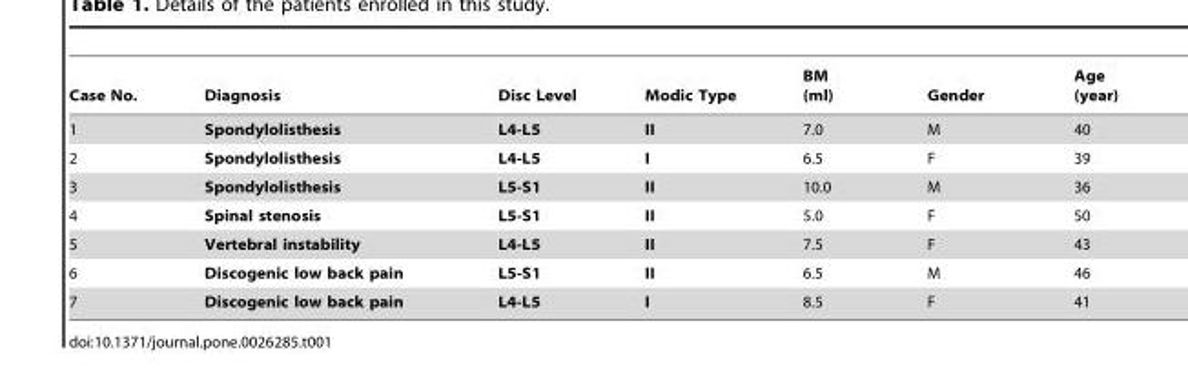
<table><thead><tr><td>Case No.</td><td>Diagnosis</td><td>Disc Level</td><td>Modic Type</td><td>BM (ml)</td><td>Gender</td><td>Age (year)</td></tr></thead><tbody><tr><td>1</td><td>Spondylolisthesis</td><td>L4-L5</td><td>II</td><td>7.0</td><td>M</td><td>40</td></tr><tr><td>2</td><td>Spondylolisthesis</td><td>L4-L5</td><td>I</td><td>6.5</td><td>F</td><td>39</td></tr><tr><td>3</td><td>Spondylolisthesis</td><td>L5-S1</td><td>II</td><td>10.0</td><td>M</td><td>36</td></tr><tr><td>4</td><td>Spinal stenosis</td><td>L5-S1</td><td>II</td><td>5.0</td><td>F</td><td>50</td></tr><tr><td>5</td><td>Vertebral instability</td><td>L4-L5</td><td>II</td><td>7.5</td><td>F</td><td>43</td></tr><tr><td>6</td><td>Discogenic low back pain</td><td>L5-S1</td><td>II</td><td>6.5</td><td>M</td><td>46</td></tr><tr><td>7</td><td>Discogenic low back pain</td><td>L4-L5</td><td>I</td><td>8.5</td><td>F</td><td>41</td></tr></tbody></table>